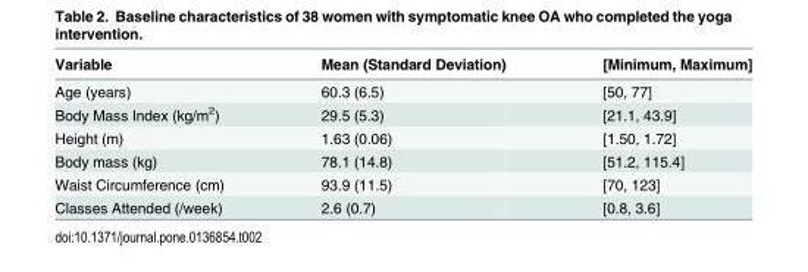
<table><thead><tr><td>Variable</td><td>Mean (Standard Deviation)</td><td>[Minimum, Maximum]</td></tr></thead><tbody><tr><td>Age (years)</td><td>60.3 (6.5)</td><td>[50, 77]</td></tr><tr><td>Body Mass Index (kg/m<sup>2</sup>)</td><td>29.5 (5.3)</td><td>[21.1, 43.9]</td></tr><tr><td>Height (m)</td><td>1.63 (0.06)</td><td>[1.50, 1.72]</td></tr><tr><td>Body mass (kg)</td><td>78.1 (14.8)</td><td>[51.2, 115.4]</td></tr><tr><td>Waist Circumference (cm)</td><td>93.9 (11.5)</td><td>[70, 123]</td></tr><tr><td>Classes Attended (/week)</td><td>2.6 (0.7)</td><td>[0.8, 3.6]</td></tr></tbody></table>